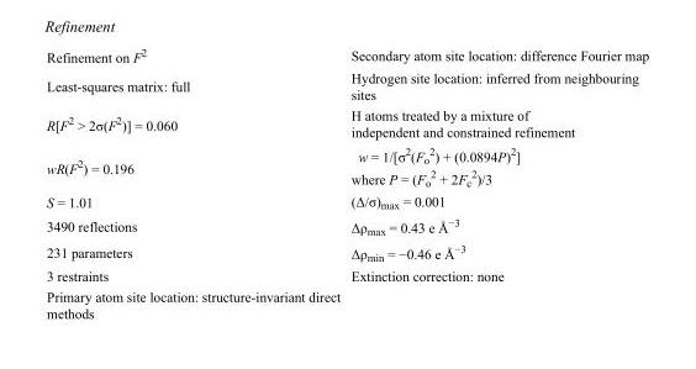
<table><tbody><tr><td>Refinement on F<sup>2</sup></td><td>Secondary atom site location: difference Fourier map</td></tr><tr><td>Least-squares matrix: full</td><td>Hydrogen site location: inferred from neighbouring sites</td></tr><tr><td>R[F<sup>2</sup> &gt; 2σ(F<sup>2</sup>)] = 0.060</td><td>H atoms treated by a mixture of independent and constrained refinement</td></tr><tr><td>wR(F<sup>2</sup>) = 0.196</td><td>w = 1/[σ<sup>2</sup>(F<sub>o</sub> <sup>2</sup>) + (0.0894P)<sup>2</sup>] where P = (F<sub>o</sub> <sup>2</sup> + 2F<sub>c</sub> <sup>2</sup>)/3</td></tr><tr><td>S = 1.01</td><td>(Δ/σ)<sub>max</sub> = 0.001</td></tr><tr><td>3490 reflections</td><td>Δρ<sub>max</sub> = 0.43 e Å<sup>−3</sup></td></tr><tr><td>231 parameters</td><td>Δρ<sub>min</sub> = −0.46 e Å<sup>−3</sup></td></tr><tr><td>3 restraints</td><td>Extinction correction: none</td></tr><tr><td>Primary atom site location: structure-invariant direct methods</td><td></td></tr></tbody></table>